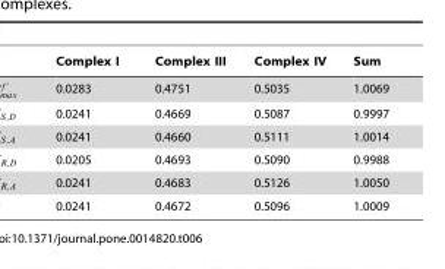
<table><thead><tr><td>Complex I</td><td>Complex III</td><td>Complex IV</td><td>Sum</td></tr></thead><tbody><tr><td>0.0283</td><td>0.4751</td><td>0.5035</td><td>1.0069</td></tr><tr><td>0.0241</td><td>0.4669</td><td>0.5087</td><td>0.9997</td></tr><tr><td>0.0241</td><td>0.4660</td><td>0.5111</td><td>1.0014</td></tr><tr><td>0.0205</td><td>0.4693</td><td>0.5090</td><td>0.9988</td></tr><tr><td>0.0241</td><td>0.4683</td><td>0.5126</td><td>1.0050</td></tr><tr><td>0.0241</td><td>0.4672</td><td>0.5096</td><td>1.0009</td></tr></tbody></table>